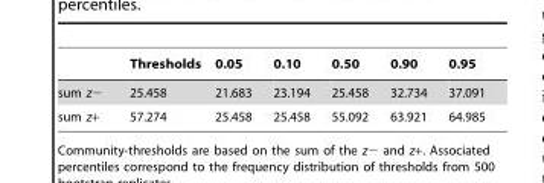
<table><thead><tr><td></td><td>Thresholds</td><td>0.05</td><td>0.10</td><td>0.50</td><td>0.90</td><td>0.95</td></tr></thead><tbody><tr><td>sum z−</td><td>25.458</td><td>21.683</td><td>23.194</td><td>25.458</td><td>32.734</td><td>37.091</td></tr><tr><td>sum z+</td><td>57.274</td><td>25.458</td><td>25.458</td><td>55.092</td><td>63.921</td><td>64.985</td></tr></tbody></table>